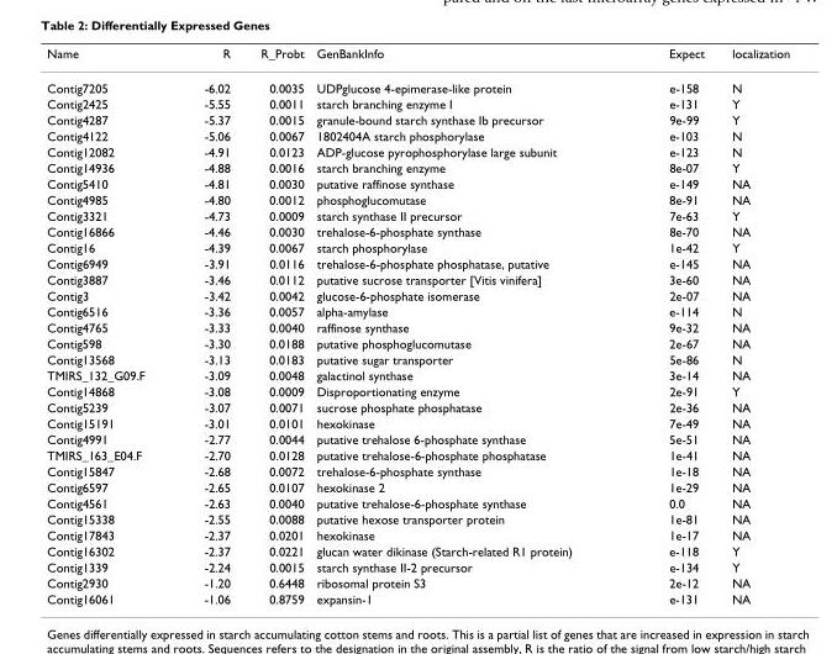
<table><thead><tr><td>Name</td><td>R</td><td>R_Probt</td><td>GenBankInfo</td><td>Expect</td><td>localization</td></tr></thead><tbody><tr><td>Contig7205</td><td>-6.02</td><td>0.0035</td><td>UDPglucose 4-epimerase-like protein</td><td>e-158</td><td>N</td></tr><tr><td>Contig2425</td><td>-5.55</td><td>0.0011</td><td>starch branching enzyme I</td><td>e-131</td><td>Y</td></tr><tr><td>Contig4287</td><td>-5.37</td><td>0.0015</td><td>granule-bound starch synthase Ib precursor</td><td>9e-99</td><td>Y</td></tr><tr><td>Contig4122</td><td>-5.06</td><td>0.0067</td><td>1802404A starch phosphorylase</td><td>e-103</td><td>N</td></tr><tr><td>Contig12082</td><td>-4.91</td><td>0.0123</td><td>ADP-glucose pyrophosphorylase large subunit</td><td>e-123</td><td>N</td></tr><tr><td>Contig14936</td><td>-4.88</td><td>0.0016</td><td>starch branching enzyme</td><td>8e-07</td><td>Y</td></tr><tr><td>Contig5410</td><td>-4.81</td><td>0.0030</td><td>putative raffinose synthase</td><td>e-149</td><td>NA</td></tr><tr><td>Contig4985</td><td>-4.80</td><td>0.0012</td><td>phosphoglucomutase</td><td>8e-91</td><td>NA</td></tr><tr><td>Contig3321</td><td>-4.73</td><td>0.0009</td><td>starch synthase II precursor</td><td>7e-63</td><td>Y</td></tr><tr><td>Contig16866</td><td>-4.46</td><td>0.0030</td><td>trehalose-6-phosphate synthase</td><td>8e-70</td><td>NA</td></tr><tr><td>Contig16</td><td>-4.39</td><td>0.0067</td><td>starch phosphorylase</td><td>1e-42</td><td>Y</td></tr><tr><td>Contig6949</td><td>-3.91</td><td>0.0116</td><td>trehalose-6-phosphate phosphatase, putative</td><td>e-145</td><td>NA</td></tr><tr><td>Contig3887</td><td>-3.46</td><td>0.0112</td><td>putative sucrose transporter [Vitis vinifera]</td><td>3e-60</td><td>NA</td></tr><tr><td>Contig3</td><td>-3.42</td><td>0.0042</td><td>glucose-6-phosphate isomerase</td><td>2e-07</td><td>NA</td></tr><tr><td>Contig6516</td><td>-3.36</td><td>0.0057</td><td>alpha-amylase</td><td>e-114</td><td>N</td></tr><tr><td>Contig4765</td><td>-3.33</td><td>0.0040</td><td>raffinose synthase</td><td>9e-32</td><td>NA</td></tr><tr><td>Contig598</td><td>-3.30</td><td>0.0188</td><td>putative phosphoglucomutase</td><td>2e-67</td><td>NA</td></tr><tr><td>Contig13568</td><td>-3.13</td><td>0.0183</td><td>putative sugar transporter</td><td>5e-86</td><td>N</td></tr><tr><td>TMIRS_132_G09.F</td><td>-3.09</td><td>0.0048</td><td>galactinol synthase</td><td>3e-14</td><td>NA</td></tr><tr><td>Contig14868</td><td>-3.08</td><td>0.0009</td><td>Disproportionating enzyme</td><td>2e-91</td><td>Y</td></tr><tr><td>Contig5239</td><td>-3.07</td><td>0.0071</td><td>sucrose phosphate phosphatase</td><td>2e-36</td><td>NA</td></tr><tr><td>Contig15191</td><td>-3.01</td><td>0.0101</td><td>hexokinase</td><td>7e-49</td><td>NA</td></tr><tr><td>Contig4991</td><td>-2.77</td><td>0.0044</td><td>putative trehalose 6-phosphate synthase</td><td>5e-51</td><td>NA</td></tr><tr><td>TMIRS_163_E04.F</td><td>-2.70</td><td>0.0128</td><td>putative trehalose-6-phosphate phosphatase</td><td>1e-41</td><td>NA</td></tr><tr><td>Contig15847</td><td>-2.68</td><td>0.0072</td><td>trehalose-6-phosphate synthase</td><td>1e-18</td><td>NA</td></tr><tr><td>Contig6597</td><td>-2.65</td><td>0.0107</td><td>hexokinase 2</td><td>1e-29</td><td>NA</td></tr><tr><td>Contig4561</td><td>-2.63</td><td>0.0040</td><td>putative trehalose-6-phosphate synthase</td><td>0.0</td><td>NA</td></tr><tr><td>Contig15338</td><td>-2.55</td><td>0.0088</td><td>putative hexose transporter protein</td><td>1e-81</td><td>NA</td></tr><tr><td>Contig17843</td><td>-2.37</td><td>0.0201</td><td>hexokinase</td><td>1e-17</td><td>NA</td></tr><tr><td>Contig16302</td><td>-2.37</td><td>0.0221</td><td>glucan water dikinase (Starch-related R1 protein)</td><td>e-118</td><td>Y</td></tr><tr><td>Contig1339</td><td>-2.24</td><td>0.0015</td><td>starch synthase II-2 precursor</td><td>e-134</td><td>Y</td></tr><tr><td>Contig2930</td><td>-1.20</td><td>0.6448</td><td>ribosomal protein S3</td><td>2e-12</td><td>NA</td></tr><tr><td>Contig16061</td><td>-1.06</td><td>0.8759</td><td>expansin-1</td><td>e-131</td><td>NA</td></tr></tbody></table>